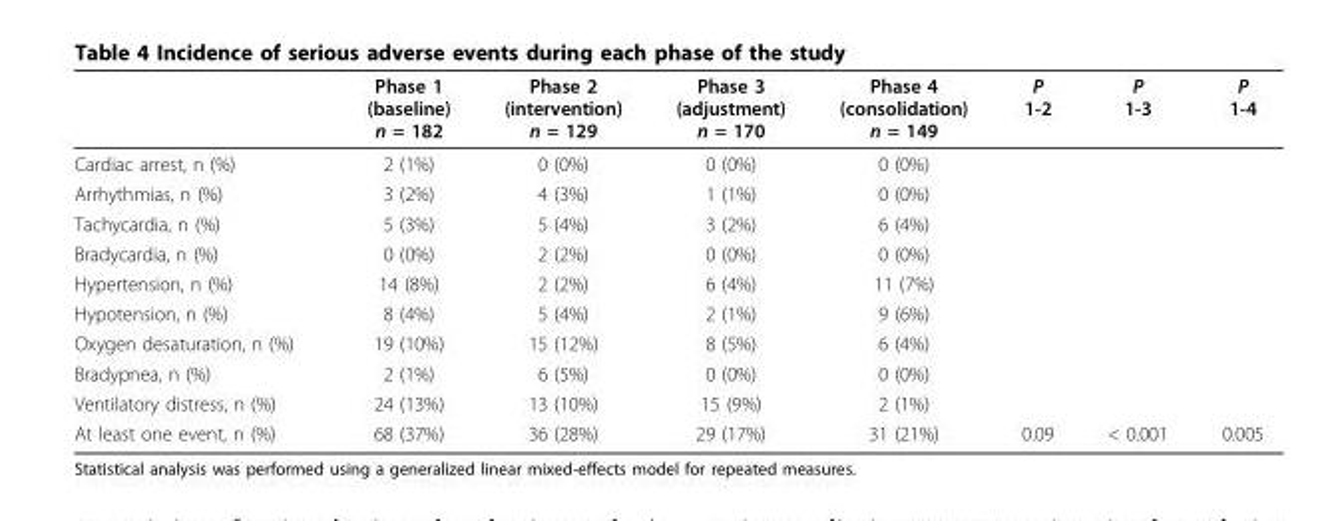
<table><thead><tr><td></td><td>Phase 1 (baseline) n = 182</td><td>Phase 2 (intervention) n = 129</td><td>Phase 3 (adjustment) n = 170</td><td>Phase 4 (consolidation) n = 149</td><td>P 1-2</td><td>P 1-3</td><td>P 1-4</td></tr></thead><tbody><tr><td>Cardiac arrest, n (%)</td><td>2 (1%)</td><td>0 (0%)</td><td>0 (0%)</td><td>0 (0%)</td><td></td><td></td><td></td></tr><tr><td>Arrhythmias, n (%)</td><td>3 (2%)</td><td>4 (3%)</td><td>1 (1%)</td><td>0 (0%)</td><td></td><td></td><td></td></tr><tr><td>Tachycardia, n (%)</td><td>5 (3%)</td><td>5 (4%)</td><td>3 (2%)</td><td>6 (4%)</td><td></td><td></td><td></td></tr><tr><td>Bradycardia, n (%)</td><td>0 (0%)</td><td>2 (2%)</td><td>0 (0%)</td><td>0 (0%)</td><td></td><td></td><td></td></tr><tr><td>Hypertension, n (%)</td><td>14 (8%)</td><td>2 (2%)</td><td>6 (4%)</td><td>11 (7%)</td><td></td><td></td><td></td></tr><tr><td>Hypotension, n (%)</td><td>8 (4%)</td><td>5 (4%)</td><td>2 (1%)</td><td>9 (6%)</td><td></td><td></td><td></td></tr><tr><td>Oxygen desaturation, n (%)</td><td>19 (10%)</td><td>15 (12%)</td><td>8 (5%)</td><td>6 (4%)</td><td></td><td></td><td></td></tr><tr><td>Bradypnea, n (%)</td><td>2 (1%)</td><td>6 (5%)</td><td>0 (0%)</td><td>0 (0%)</td><td></td><td></td><td></td></tr><tr><td>Ventilatory distress, n (%)</td><td>24 (13%)</td><td>13 (10%)</td><td>15 (9%)</td><td>2 (1%)</td><td></td><td></td><td></td></tr><tr><td>At least one event, n (%)</td><td>68 (37%)</td><td>36 (28%)</td><td>29 (17%)</td><td>31 (21%)</td><td>0.09</td><td>&lt; 0.001</td><td>0.005</td></tr></tbody></table>